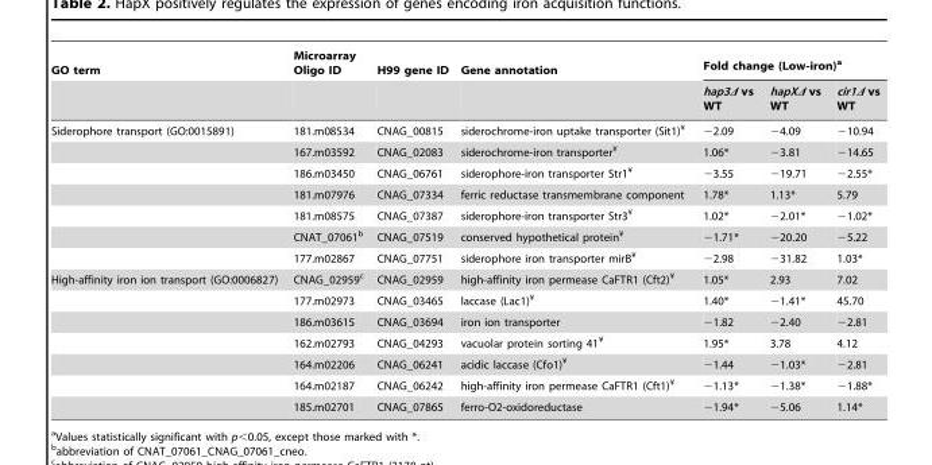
<table><thead><tr><td rowspan="2">GO term</td><td rowspan="2">Microarray Oligo ID</td><td rowspan="2">H99 gene ID</td><td rowspan="2">Gene annotation</td><td colspan="3">Fold change (Low-iron)<sup>a</sup></td></tr><tr><td>hap3Δ vs WT</td><td>hapXΔ vs WT</td><td>cir1Δ vs WT</td></tr></thead><tbody><tr><td rowspan="7">Siderophore transport (GO:0015891)</td><td>181.m08534</td><td>CNAG_00815</td><td>siderochrome-iron uptake transporter (Sit1)¥</td><td>−2.09</td><td>−4.09</td><td>−10.94</td></tr><tr><td>167.m03592</td><td>CNAG_02083</td><td>siderochrome-iron transporter¥</td><td>1.06*</td><td>−3.81</td><td>−14.65</td></tr><tr><td>186.m03450</td><td>CNAG_06761</td><td>siderophore-iron transporter Str1¥</td><td>−3.55</td><td>−19.71</td><td>−2.55*</td></tr><tr><td>181.m07976</td><td>CNAG_07334</td><td>ferric reductase transmembrane component</td><td>1.78*</td><td>1.13*</td><td>5.79</td></tr><tr><td>181.m08575</td><td>CNAG_07387</td><td>siderophore-iron transporter Str3¥</td><td>1.02*</td><td>−2.01*</td><td>−1.02*</td></tr><tr><td>CNAT_07061<sup>b</sup></td><td>CNAG_07519</td><td>conserved hypothetical protein¥</td><td>−1.71*</td><td>−20.20</td><td>−5.22</td></tr><tr><td>177.m02867</td><td>CNAG_07751</td><td>siderophore iron transporter mirB¥</td><td>−2.98</td><td>−31.82</td><td>1.03*</td></tr><tr><td rowspan="7">High-affinity iron ion transport (GO:0006827)</td><td>CNAG_02959<sup>c</sup></td><td>CNAG_02959</td><td>high-affinity iron permease CaFTR1 (Cft2)¥</td><td>1.05*</td><td>2.93</td><td>7.02</td></tr><tr><td>177.m02973</td><td>CNAG_03465</td><td>laccase (Lac1)¥</td><td>1.40*</td><td>−1.41*</td><td>45.70</td></tr><tr><td>186.m03615</td><td>CNAG_03694</td><td>iron ion transporter</td><td>−1.82</td><td>−2.40</td><td>−2.81</td></tr><tr><td>162.m02793</td><td>CNAG_04293</td><td>vacuolar protein sorting 41¥</td><td>1.95*</td><td>3.78</td><td>4.12</td></tr><tr><td>164.m02206</td><td>CNAG_06241</td><td>acidic laccase (Cfo1)¥</td><td>−1.44</td><td>−1.03*</td><td>−2.81</td></tr><tr><td>164.m02187</td><td>CNAG_06242</td><td>high-affinity iron permease CaFTR1 (Cft1)¥</td><td>−1.13*</td><td>−1.38*</td><td>−1.88*</td></tr><tr><td>185.m02701</td><td>CNAG_07865</td><td>ferro-O2-oxidoreductase</td><td>−1.94*</td><td>−5.06</td><td>1.14*</td></tr></tbody></table>